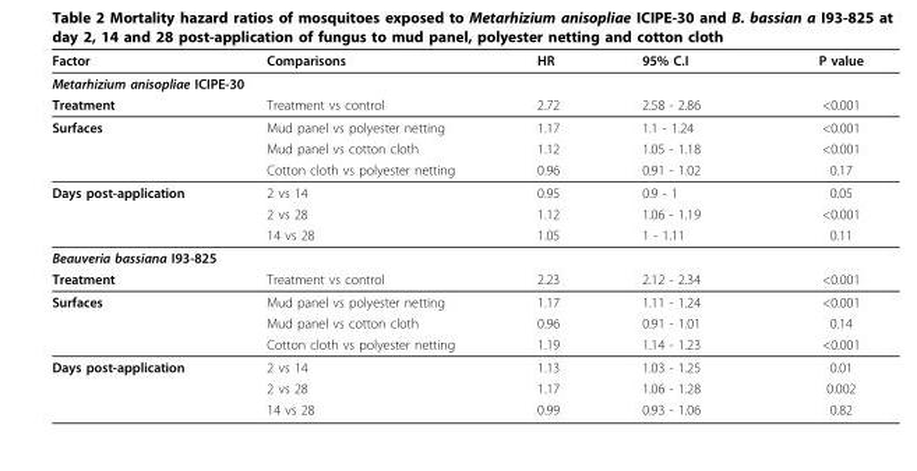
<table><thead><tr><td>Factor</td><td>Comparisons</td><td>HR</td><td>95% C.I</td><td>P value</td></tr></thead><tbody><tr><td colspan="5">Metarhizium anisopliae ICIPE-30</td></tr><tr><td>Treatment</td><td>Treatment vs control</td><td>2.72</td><td>2.58 - 2.86</td><td>&lt;0.001</td></tr><tr><td rowspan="3">Surfaces</td><td>Mud panel vs polyester netting</td><td>1.17</td><td>1.1 - 1.24</td><td>&lt;0.001</td></tr><tr><td>Mud panel vs cotton cloth</td><td>1.12</td><td>1.05 - 1.18</td><td>&lt;0.001</td></tr><tr><td>Cotton cloth vs polyester netting</td><td>0.96</td><td>0.91 - 1.02</td><td>0.17</td></tr><tr><td rowspan="3">Days post-application</td><td>2 vs 14</td><td>0.95</td><td>0.9 - 1</td><td>0.05</td></tr><tr><td>2 vs 28</td><td>1.12</td><td>1.06 - 1.19</td><td>&lt;0.001</td></tr><tr><td>14 vs 28</td><td>1.05</td><td>1 - 1.11</td><td>0.11</td></tr><tr><td colspan="5">Beauveria bassiana I93-825</td></tr><tr><td>Treatment</td><td>Treatment vs control</td><td>2.23</td><td>2.12 - 2.34</td><td>&lt;0.001</td></tr><tr><td rowspan="3">Surfaces</td><td>Mud panel vs polyester netting</td><td>1.17</td><td>1.11 - 1.24</td><td>&lt;0.001</td></tr><tr><td>Mud panel vs cotton cloth</td><td>0.96</td><td>0.91 - 1.01</td><td>0.14</td></tr><tr><td>Cotton cloth vs polyester netting</td><td>1.19</td><td>1.14 - 1.23</td><td>&lt;0.001</td></tr><tr><td rowspan="3">Days post-application</td><td>2 vs 14</td><td>1.13</td><td>1.03 - 1.25</td><td>0.01</td></tr><tr><td>2 vs 28</td><td>1.17</td><td>1.06 - 1.28</td><td>0.002</td></tr><tr><td>14 vs 28</td><td>0.99</td><td>0.93 - 1.06</td><td>0.82</td></tr></tbody></table>